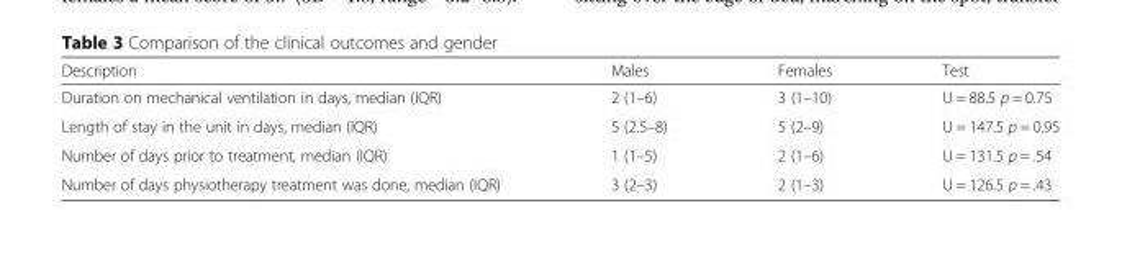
<table><thead><tr><td>Description</td><td>Males</td><td>Females</td><td>Test</td></tr></thead><tbody><tr><td>Duration on mechanical ventilation in days, median (IQR)</td><td>2 (1–6)</td><td>3 (1–10)</td><td>U = 88.5 p = 0.75</td></tr><tr><td>Length of stay in the unit in days, median (IQR)</td><td>5 (2.5–8)</td><td>5 (2–9)</td><td>U = 147.5 p = 0.95</td></tr><tr><td>Number of days prior to treatment, median (IQR)</td><td>1 (1–5)</td><td>2 (1–6)</td><td>U = 131.5 p = .54</td></tr><tr><td>Number of days physiotherapy treatment was done, median (IQR)</td><td>3 (2–3)</td><td>2 (1–3)</td><td>U = 126.5 p = .43</td></tr></tbody></table>